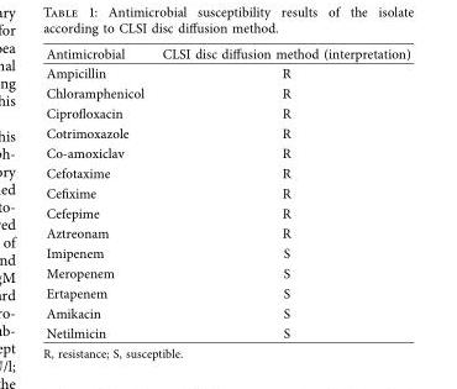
<table><thead><tr><td>Antimicrobial</td><td>CLSI disc difusion method (interpretation)</td></tr></thead><tbody><tr><td>Ampicillin</td><td>R</td></tr><tr><td>Chloramphenicol</td><td>R</td></tr><tr><td>Ciprofoxacin</td><td>R</td></tr><tr><td>Cotrimoxazole</td><td>R</td></tr><tr><td>Co-amoxiclav</td><td>R</td></tr><tr><td>Cefotaxime</td><td>R</td></tr><tr><td>Cefxime</td><td>R</td></tr><tr><td>Cefepime</td><td>R</td></tr><tr><td>Aztreonam</td><td>R</td></tr><tr><td>Imipenem</td><td>S</td></tr><tr><td>Meropenem</td><td>S</td></tr><tr><td>Ertapenem</td><td>S</td></tr><tr><td>Amikacin</td><td>S</td></tr><tr><td>Netilmicin</td><td>S</td></tr></tbody></table>